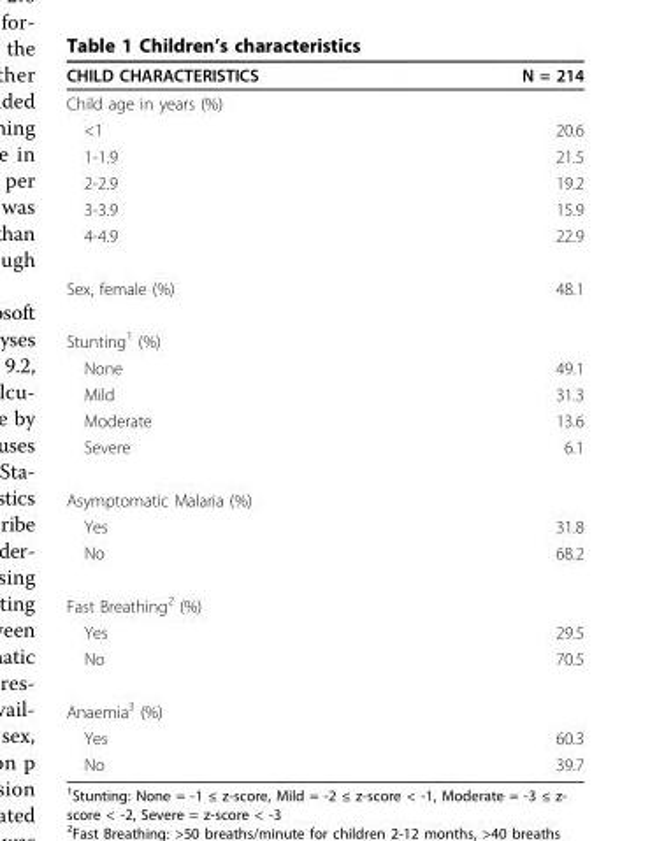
<table><thead><tr><td>CHILD CHARACTERISTICS</td><td>N = 214</td></tr></thead><tbody><tr><td colspan="2">Child age in years (%)</td></tr><tr><td>&lt;1</td><td>20.6</td></tr><tr><td>1-1.9</td><td>21.5</td></tr><tr><td>2-2.9</td><td>19.2</td></tr><tr><td>3-3.9</td><td>15.9</td></tr><tr><td>4-4.9</td><td>22.9</td></tr><tr><td>Sex, female (%)</td><td>48.1</td></tr><tr><td colspan="2">Stunting<sup>1</sup> (%)</td></tr><tr><td>None</td><td>49.1</td></tr><tr><td>Mild</td><td>31.3</td></tr><tr><td>Moderate</td><td>13.6</td></tr><tr><td>Severe</td><td>6.1</td></tr><tr><td colspan="2">Asymptomatic Malaria (%)</td></tr><tr><td>Yes</td><td>31.8</td></tr><tr><td>No</td><td>68.2</td></tr><tr><td colspan="2">Fast Breathing<sup>2</sup> (%)</td></tr><tr><td>Yes</td><td>29.5</td></tr><tr><td>No</td><td>70.5</td></tr><tr><td colspan="2">Anaemia<sup>3</sup> (%)</td></tr><tr><td>Yes</td><td>60.3</td></tr><tr><td>No</td><td>39.7</td></tr></tbody></table>